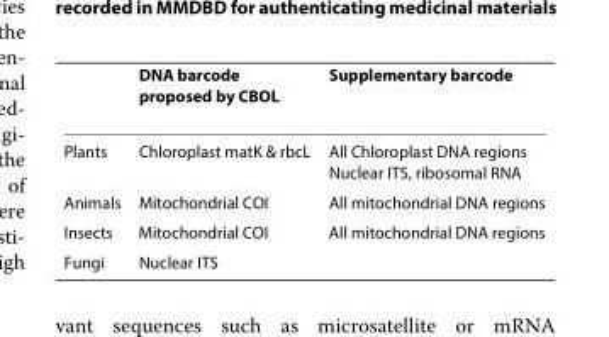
<table><thead><tr><td></td><td>DNA barcode proposed by CBOL</td><td>Supplementary barcode</td></tr></thead><tbody><tr><td>Plants</td><td>Chloroplast matK &amp; rbcL</td><td>All Chloroplast DNA regions Nuclear ITS, ribosomal RNA</td></tr><tr><td>Animals</td><td>Mitochondrial COI</td><td>All mitochondrial DNA regions</td></tr><tr><td>Insects</td><td>Mitochondrial COI</td><td>All mitochondrial DNA regions</td></tr><tr><td>Fungi</td><td>Nuclear ITS</td><td></td></tr></tbody></table>